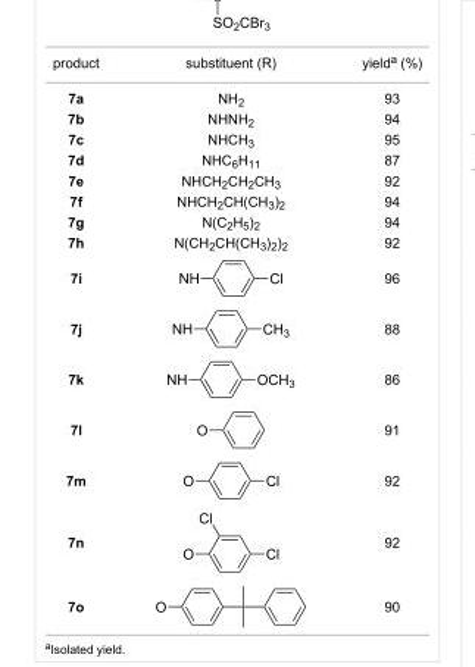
<table><tbody><tr><td>product</td><td>substituent (R)</td><td>yield<sup>a</sup> (%)</td></tr><tr><td>7a</td><td>NH<sub>2</sub></td><td>93</td></tr><tr><td>7b</td><td>NHNH<sub>2</sub></td><td>94</td></tr><tr><td>7c</td><td>NHCH<sub>3</sub></td><td>95</td></tr><tr><td>7d</td><td>NHC<sub>6</sub>H<sub>11</sub></td><td>87</td></tr><tr><td>7e</td><td>NHCH<sub>2</sub>CH<sub>2</sub>CH<sub>3</sub></td><td>92</td></tr><tr><td>7f</td><td>NHCH<sub>2</sub>CH(CH<sub>3</sub>)<sub>2</sub></td><td>94</td></tr><tr><td>7g</td><td>N(C<sub>2</sub>H<sub>5</sub>)<sub>2</sub></td><td>94</td></tr><tr><td>7h</td><td>N(CH<sub>2</sub>CH(CH<sub>3</sub>)<sub>2</sub>)<sub>2</sub></td><td>92</td></tr><tr><td>7i</td><td></td><td>96</td></tr><tr><td>7j</td><td></td><td>88</td></tr><tr><td>7k</td><td></td><td>86</td></tr><tr><td>7l</td><td></td><td>91</td></tr><tr><td>7m</td><td></td><td>92</td></tr><tr><td>7n</td><td></td><td>92</td></tr><tr><td>7o</td><td></td><td>90</td></tr></tbody></table>